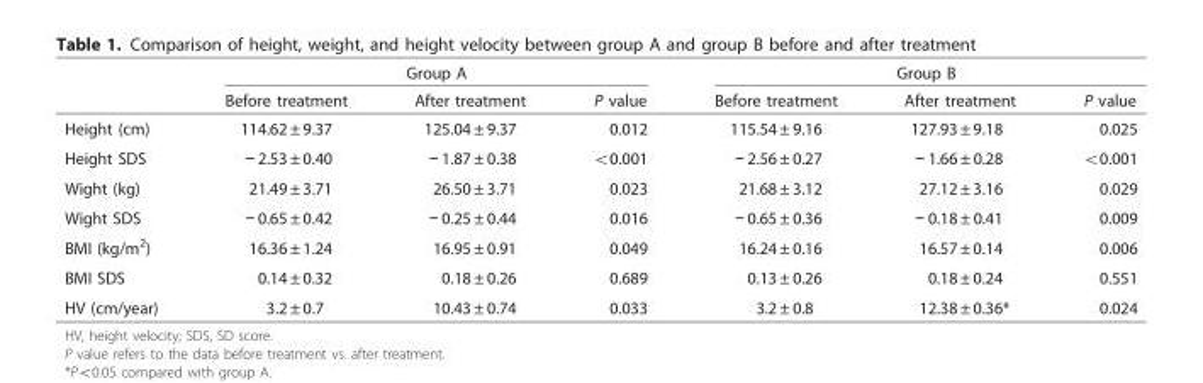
<table><thead><tr><td rowspan="2"></td><td colspan="3">Group A</td><td colspan="3">Group B</td></tr><tr><td>Before treatment</td><td>After treatment</td><td>P value</td><td>Before treatment</td><td>After treatment</td><td>P value</td></tr></thead><tbody><tr><td>Height (cm)</td><td>114.62 ± 9.37</td><td>125.04 ± 9.37</td><td>0.012</td><td>115.54 ± 9.16</td><td>127.93 ± 9.18</td><td>0.025</td></tr><tr><td>Height SDS</td><td>− 2.53 ± 0.40</td><td>− 1.87 ± 0.38</td><td>&lt;0.001</td><td>− 2.56 ± 0.27</td><td>− 1.66 ± 0.28</td><td>&lt;0.001</td></tr><tr><td>Wight (kg)</td><td>21.49 ± 3.71</td><td>26.50 ± 3.71</td><td>0.023</td><td>21.68 ± 3.12</td><td>27.12 ± 3.16</td><td>0.029</td></tr><tr><td>Wight SDS</td><td>− 0.65 ± 0.42</td><td>− 0.25 ± 0.44</td><td>0.016</td><td>− 0.65 ± 0.36</td><td>− 0.18 ± 0.41</td><td>0.009</td></tr><tr><td>BMI (kg/m<sup>2</sup>)</td><td>16.36 ± 1.24</td><td>16.95 ± 0.91</td><td>0.049</td><td>16.24 ± 0.16</td><td>16.57 ± 0.14</td><td>0.006</td></tr><tr><td>BMI SDS</td><td>0.14 ± 0.32</td><td>0.18 ± 0.26</td><td>0.689</td><td>0.13 ± 0.26</td><td>0.18 ± 0.24</td><td>0.551</td></tr><tr><td>HV (cm/year)</td><td>3.2 ± 0.7</td><td>10.43 ± 0.74</td><td>0.033</td><td>3.2 ± 0.8</td><td>12.38 ± 0.36*</td><td>0.024</td></tr></tbody></table>